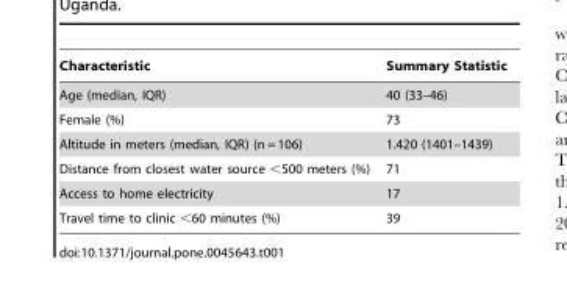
<table><thead><tr><td>Characteristic</td><td>Summary Statistic</td></tr></thead><tbody><tr><td>Age (median, IQR)</td><td>40 (33–46)</td></tr><tr><td>Female (%)</td><td>73</td></tr><tr><td>Altitude in meters (median, IQR) (n = 106)</td><td>1.420 (1401–1439)</td></tr><tr><td>Distance from closest water source &lt;500 meters (%)</td><td>71</td></tr><tr><td>Access to home electricity</td><td>17</td></tr><tr><td>Travel time to clinic &lt;60 minutes (%)</td><td>39</td></tr></tbody></table>